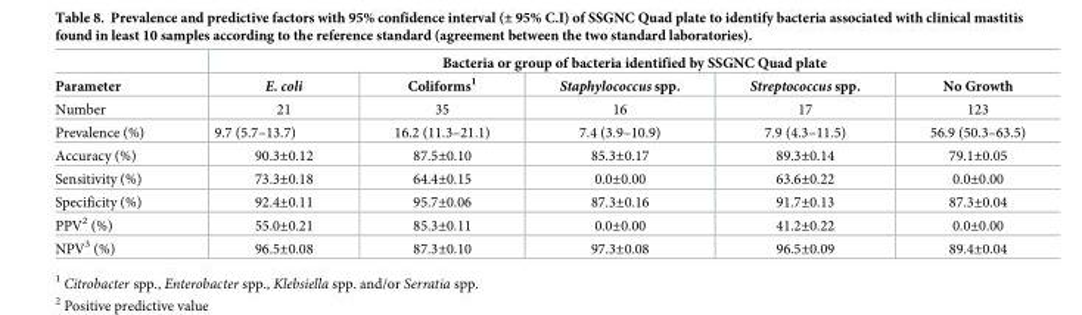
<table><thead><tr><td rowspan="2">Parameter</td><td colspan="5">Bacteria or group of bacteria identified by SSGNC Quad plate</td></tr><tr><td>E. coli</td><td>Coliforms<sup>1</sup></td><td>Staphylococcus spp.</td><td>Streptococcus spp.</td><td>No Growth</td></tr></thead><tbody><tr><td>Number</td><td>21</td><td>35</td><td>16</td><td>17</td><td>123</td></tr><tr><td>Prevalence (%)</td><td>9.7 (5.7–13.7)</td><td>16.2 (11.3–21.1)</td><td>7.4 (3.9–10.9)</td><td>7.9 (4.3–11.5)</td><td>56.9 (50.3–63.5)</td></tr><tr><td>Accuracy (%)</td><td>90.3±0.12</td><td>87.5±0.10</td><td>85.3±0.17</td><td>89.3±0.14</td><td>79.1±0.05</td></tr><tr><td>Sensitivity (%)</td><td>73.3±0.18</td><td>64.4±0.15</td><td>0.0±0.00</td><td>63.6±0.22</td><td>0.0±0.00</td></tr><tr><td>Specificity (%)</td><td>92.4±0.11</td><td>95.7±0.06</td><td>87.3±0.16</td><td>91.7±0.13</td><td>87.3±0.04</td></tr><tr><td>PPV<sup>2</sup> (%)</td><td>55.0±0.21</td><td>85.3±0.11</td><td>0.0±0.00</td><td>41.2±0.22</td><td>0.0±0.00</td></tr><tr><td>NPV<sup>3</sup> (%)</td><td>96.5±0.08</td><td>87.3±0.10</td><td>97.3±0.08</td><td>96.5±0.09</td><td>89.4±0.04</td></tr></tbody></table>